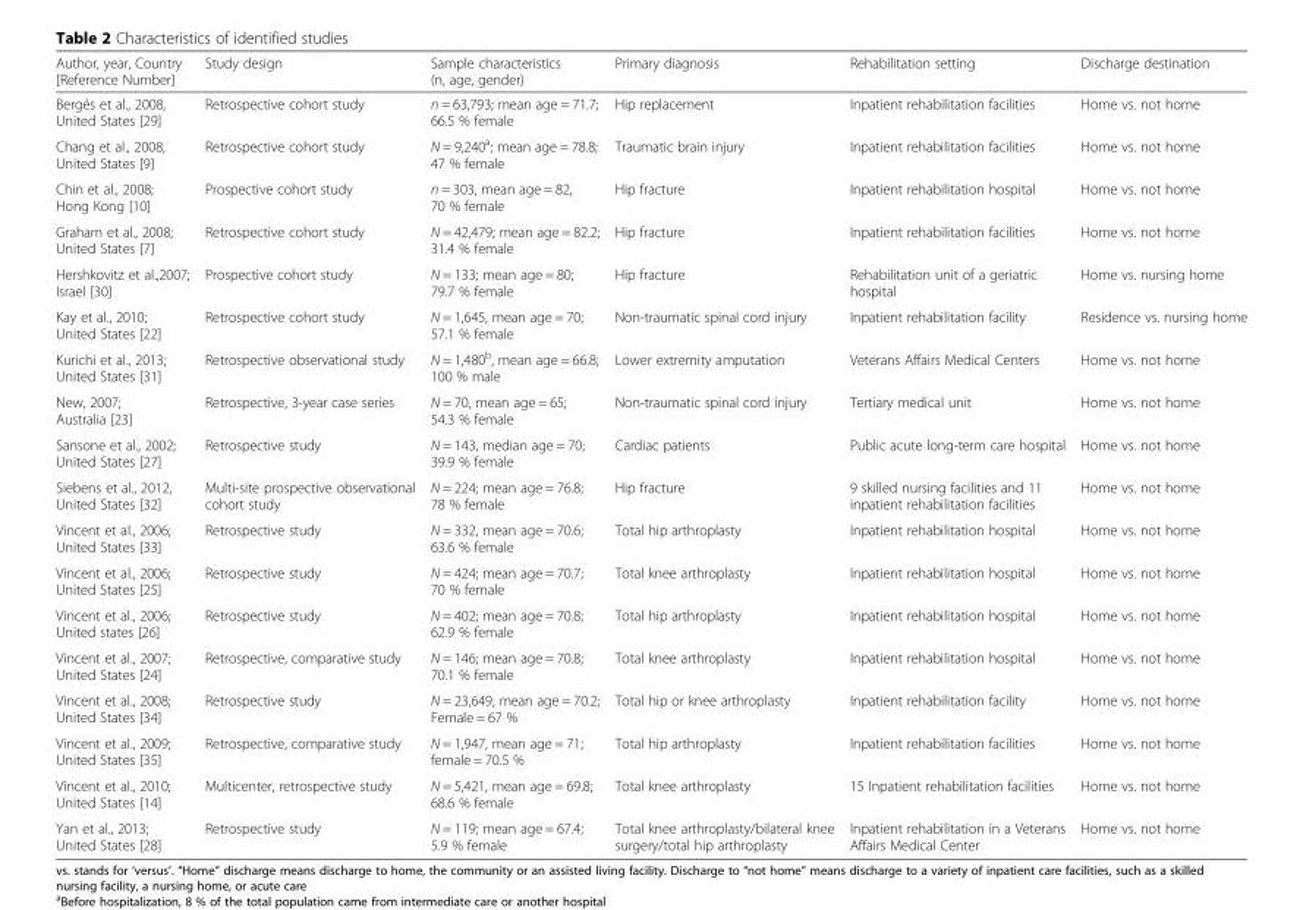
<table><thead><tr><td>Author, year, Country [Reference Number]</td><td>Study design</td><td>Sample characteristics (n, age, gender)</td><td>Primary diagnosis</td><td>Rehabilitation setting</td><td>Discharge destination</td></tr></thead><tbody><tr><td>Bergés et al., 2008, United States [29]</td><td>Retrospective cohort study</td><td>n = 63,793; mean age = 71.7; 66.5 % female</td><td>Hip replacement</td><td>Inpatient rehabilitation facilities</td><td>Home vs. not home</td></tr><tr><td>Chang et al., 2008, United States [9]</td><td>Retrospective cohort study</td><td>N = 9,240<sup>a</sup>; mean age = 78.8; 47 % female</td><td>Traumatic brain injury</td><td>Inpatient rehabilitation facilities</td><td>Home vs. not home</td></tr><tr><td>Chin et al., 2008; Hong Kong [10]</td><td>Prospective cohort study</td><td>n = 303, mean age = 82, 70 % female</td><td>Hip fracture</td><td>Inpatient rehabilitation hospital</td><td>Home vs. not home</td></tr><tr><td>Graham et al., 2008; United States [7]</td><td>Retrospective cohort study</td><td>N = 42,479; mean age = 82.2; 31.4 % female</td><td>Hip fracture</td><td>Inpatient rehabilitation facilities</td><td>Home vs. not home</td></tr><tr><td>Hershkovitz et al.,2007; Israel [30]</td><td>Prospective cohort study</td><td>N = 133; mean age = 80; 79.7 % female</td><td>Hip fracture</td><td>Rehabilitation unit of a geriatric hospital</td><td>Home vs. nursing home</td></tr><tr><td>Kay et al., 2010; United States [22]</td><td>Retrospective cohort study</td><td>N = 1,645, mean age = 70; 57.1 % female</td><td>Non-traumatic spinal cord injury</td><td>Inpatient rehabilitation facility</td><td>Residence vs. nursing home</td></tr><tr><td>Kurichi et al., 2013; United States [31]</td><td>Retrospective observational study</td><td>N = 1,480<sup>b</sup>, mean age = 66.8; 100 % male</td><td>Lower extremity amputation</td><td>Veterans Affairs Medical Centers</td><td>Home vs. not home</td></tr><tr><td>New, 2007; Australia [23]</td><td>Retrospective, 3-year case series</td><td>N = 70, mean age = 65; 54.3 % female</td><td>Non-traumatic spinal cord injury</td><td>Tertiary medical unit</td><td>Home vs. not home</td></tr><tr><td>Sansone et al., 2002; United States [27]</td><td>Retrospective study</td><td>N = 143, median age = 70; 39.9 % female</td><td>Cardiac patients</td><td>Public acute long-term care hospital</td><td>Home vs. not home</td></tr><tr><td>Siebens et al., 2012, United States [32]</td><td>Multi-site prospective observational cohort study</td><td>N = 224; mean age = 76.8; 78 % female</td><td>Hip fracture</td><td>9 skilled nursing facilities and 11 inpatient rehabilitation facilities</td><td>Home vs. not home</td></tr><tr><td>Vincent et al., 2006; United States [33]</td><td>Retrospective study</td><td>N = 332, mean age = 70.6; 63.6 % female</td><td>Total hip arthroplasty</td><td>Inpatient rehabilitation hospital</td><td>Home vs. not home</td></tr><tr><td>Vincent et al., 2006; United States [25]</td><td>Retrospective study</td><td>N = 424; mean age = 70.7; 70 % female</td><td>Total knee arthroplasty</td><td>Inpatient rehabilitation hospital</td><td>Home vs. not home</td></tr><tr><td>Vincent et al., 2006; United states [26]</td><td>Retrospective study</td><td>N = 402; mean age = 70.8; 62.9 % female</td><td>Total hip arthroplasty</td><td>Inpatient rehabilitation hospital</td><td>Home vs. not home</td></tr><tr><td>Vincent et al., 2007; United States [24]</td><td>Retrospective, comparative study</td><td>N = 146; mean age = 70.8; 70.1 % female</td><td>Total knee arthroplasty</td><td>Inpatient rehabilitation hospital</td><td>Home vs. not home</td></tr><tr><td>Vincent et al., 2008; United States [34]</td><td>Retrospective study</td><td>N = 23,649, mean age = 70.2; Female = 67 %</td><td>Total hip or knee arthroplasty</td><td>Inpatient rehabilitation facility</td><td>Home vs. not home</td></tr><tr><td>Vincent et al., 2009; United States [35]</td><td>Retrospective, comparative study</td><td>N = 1,947, mean age = 71; female = 70.5 %</td><td>Total hip arthroplasty</td><td>Inpatient rehabilitation facilities</td><td>Home vs. not home</td></tr><tr><td>Vincent et al., 2010; United States [14]</td><td>Multicenter, retrospective study</td><td>N = 5,421, mean age = 69.8; 68.6 % female</td><td>Total knee arthroplasty</td><td>15 Inpatient rehabilitation facilities</td><td>Home vs. not home</td></tr><tr><td>Yan et al., 2013; United States [28]</td><td>Retrospective study</td><td>N = 119; mean age = 67.4; 5.9 % female</td><td>Total knee arthroplasty/bilateral knee surgery/total hip arthroplasty</td><td>Inpatient rehabilitation in a Veterans Affairs Medical Center</td><td>Home vs. not home</td></tr></tbody></table>